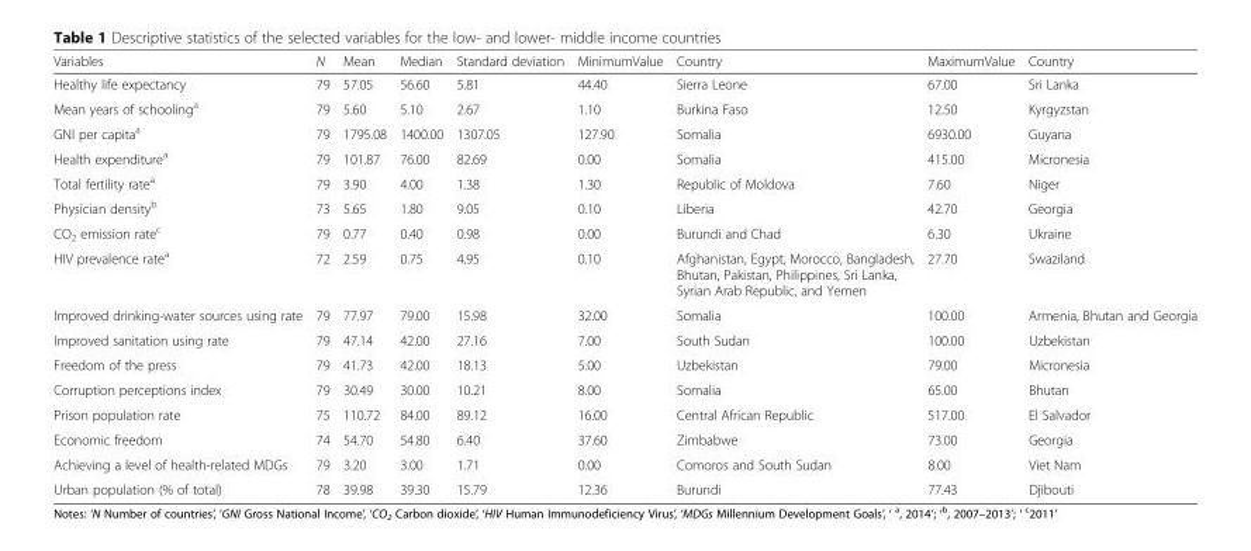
<table><thead><tr><td>Variables</td><td>N</td><td>Mean</td><td>Median</td><td>Standard deviation</td><td>MinimumValue</td><td>Country</td><td>MaximumValue</td><td>Country</td></tr></thead><tbody><tr><td>Healthy life expectancy</td><td>79</td><td>57.05</td><td>56.60</td><td>5.81</td><td>44.40</td><td>Sierra Leone</td><td>67.00</td><td>Sri Lanka</td></tr><tr><td>Mean years of schooling<sup>a</sup></td><td>79</td><td>5.60</td><td>5.10</td><td>2.67</td><td>1.10</td><td>Burkina Faso</td><td>12.50</td><td>Kyrgyzstan</td></tr><tr><td>GNI per capita<sup>a</sup></td><td>79</td><td>1795.08</td><td>1400.00</td><td>1307.05</td><td>127.90</td><td>Somalia</td><td>6930.00</td><td>Guyana</td></tr><tr><td>Health expenditure<sup>a</sup></td><td>79</td><td>101.87</td><td>76.00</td><td>82.69</td><td>0.00</td><td>Somalia</td><td>415.00</td><td>Micronesia</td></tr><tr><td>Total fertility rate<sup>a</sup></td><td>79</td><td>3.90</td><td>4.00</td><td>1.38</td><td>1.30</td><td>Republic of Moldova</td><td>7.60</td><td>Niger</td></tr><tr><td>Physician density<sup>b</sup></td><td>73</td><td>5.65</td><td>1.80</td><td>9.05</td><td>0.10</td><td>Liberia</td><td>42.70</td><td>Georgia</td></tr><tr><td>CO<sub>2</sub> emission rate<sup>c</sup></td><td>79</td><td>0.77</td><td>0.40</td><td>0.98</td><td>0.00</td><td>Burundi and Chad</td><td>6.30</td><td>Ukraine</td></tr><tr><td>HIV prevalence rate<sup>a</sup></td><td>72</td><td>2.59</td><td>0.75</td><td>4.95</td><td>0.10</td><td>Afghanistan, Egypt, Morocco, Bangladesh, Bhutan, Pakistan, Philippines, Sri Lanka, Syrian Arab Republic, and Yemen</td><td>27.70</td><td>Swaziland</td></tr><tr><td>Improved drinking-water sources using rate</td><td>79</td><td>77.97</td><td>79.00</td><td>15.98</td><td>32.00</td><td>Somalia</td><td>100.00</td><td>Armenia, Bhutan and Georgia</td></tr><tr><td>Improved sanitation using rate</td><td>79</td><td>47.14</td><td>42.00</td><td>27.16</td><td>7.00</td><td>South Sudan</td><td>100.00</td><td>Uzbekistan</td></tr><tr><td>Freedom of the press</td><td>79</td><td>41.73</td><td>42.00</td><td>18.13</td><td>5.00</td><td>Uzbekistan</td><td>79.00</td><td>Micronesia</td></tr><tr><td>Corruption perceptions index</td><td>79</td><td>30.49</td><td>30.00</td><td>10.21</td><td>8.00</td><td>Somalia</td><td>65.00</td><td>Bhutan</td></tr><tr><td>Prison population rate</td><td>75</td><td>110.72</td><td>84.00</td><td>89.12</td><td>16.00</td><td>Central African Republic</td><td>517.00</td><td>El Salvador</td></tr><tr><td>Economic freedom</td><td>74</td><td>54.70</td><td>54.80</td><td>6.40</td><td>37.60</td><td>Zimbabwe</td><td>73.00</td><td>Georgia</td></tr><tr><td>Achieving a level of health-related MDGs</td><td>79</td><td>3.20</td><td>3.00</td><td>1.71</td><td>0.00</td><td>Comoros and South Sudan</td><td>8.00</td><td>Viet Nam</td></tr><tr><td>Urban population (% of total)</td><td>78</td><td>39.98</td><td>39.30</td><td>15.79</td><td>12.36</td><td>Burundi</td><td>77.43</td><td>Djibouti</td></tr></tbody></table>